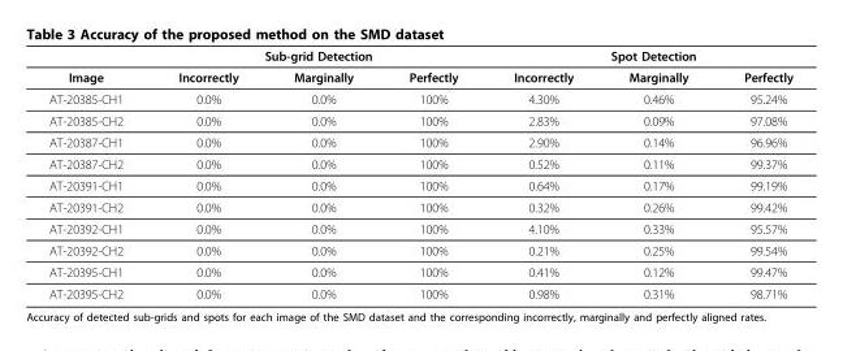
<table><thead><tr><td rowspan="2">Image</td><td colspan="3">Sub-grid Detection</td><td colspan="3">Spot Detection</td></tr><tr><td>Incorrectly</td><td>Marginally</td><td>Perfectly</td><td>Incorrectly</td><td>Marginally</td><td>Perfectly</td></tr></thead><tbody><tr><td>AT-20385-CH1</td><td>0.0%</td><td>0.0%</td><td>100%</td><td>4.30%</td><td>0.46%</td><td>95.24%</td></tr><tr><td>AT-20385-CH2</td><td>0.0%</td><td>0.0%</td><td>100%</td><td>2.83%</td><td>0.09%</td><td>97.08%</td></tr><tr><td>AT-20387-CH1</td><td>0.0%</td><td>0.0%</td><td>100%</td><td>2.90%</td><td>0.14%</td><td>96.96%</td></tr><tr><td>AT-20387-CH2</td><td>0.0%</td><td>0.0%</td><td>100%</td><td>0.52%</td><td>0.11%</td><td>99.37%</td></tr><tr><td>AT-20391-CH1</td><td>0.0%</td><td>0.0%</td><td>100%</td><td>0.64%</td><td>0.17%</td><td>99.19%</td></tr><tr><td>AT-20391-CH2</td><td>0.0%</td><td>0.0%</td><td>100%</td><td>0.32%</td><td>0.26%</td><td>99.42%</td></tr><tr><td>AT-20392-CH1</td><td>0.0%</td><td>0.0%</td><td>100%</td><td>4.10%</td><td>0.33%</td><td>95.57%</td></tr><tr><td>AT-20392-CH2</td><td>0.0%</td><td>0.0%</td><td>100%</td><td>0.21%</td><td>0.25%</td><td>99.54%</td></tr><tr><td>AT-20395-CH1</td><td>0.0%</td><td>0.0%</td><td>100%</td><td>0.41%</td><td>0.12%</td><td>99.47%</td></tr><tr><td>AT-20395-CH2</td><td>0.0%</td><td>0.0%</td><td>100%</td><td>0.98%</td><td>0.31%</td><td>98.71%</td></tr></tbody></table>